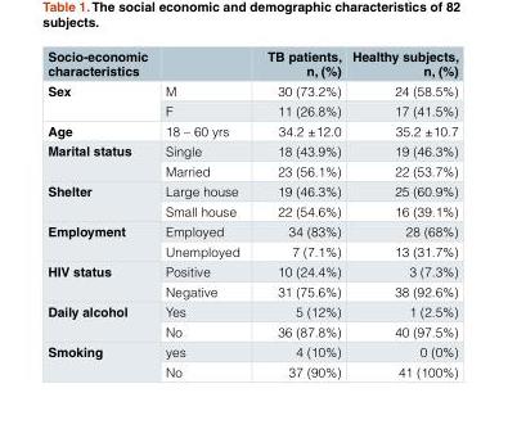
<table><thead><tr><td>Socio-economic characteristics</td><td></td><td>TB patients, n, (%)</td><td>Healthy subjects, n, (%)</td></tr></thead><tbody><tr><td rowspan="2">Sex</td><td>M</td><td>30 (73.2%)</td><td>24 (58.5%)</td></tr><tr><td>F</td><td>11 (26.8%)</td><td>17 (41.5%)</td></tr><tr><td>Age</td><td>18 – 60 yrs</td><td>34.2 ±12.0</td><td>35.2 ±10.7</td></tr><tr><td rowspan="2">Marital status</td><td>Single</td><td>18 (43.9%)</td><td>19 (46.3%)</td></tr><tr><td>Married</td><td>23 (56.1%)</td><td>22 (53.7%)</td></tr><tr><td rowspan="2">Shelter</td><td>Large house</td><td>19 (46.3%)</td><td>25 (60.9%)</td></tr><tr><td>Small house</td><td>22 (54.6%)</td><td>16 (39.1%)</td></tr><tr><td rowspan="2">Employment</td><td>Employed</td><td>34 (83%)</td><td>28 (68%)</td></tr><tr><td>Unemployed</td><td>7 (7.1%)</td><td>13 (31.7%)</td></tr><tr><td rowspan="2">HIV status</td><td>Positive</td><td>10 (24.4%)</td><td>3 (7.3%)</td></tr><tr><td>Negative</td><td>31 (75.6%)</td><td>38 (92.6%)</td></tr><tr><td rowspan="2">Daily alcohol</td><td>Yes</td><td>5 (12%)</td><td>1 (2.5%)</td></tr><tr><td>No</td><td>36 (87.8%)</td><td>40 (97.5%)</td></tr><tr><td rowspan="2">Smoking</td><td>yes</td><td>4 (10%)</td><td>0 (0%)</td></tr><tr><td>No</td><td>37 (90%)</td><td>41 (100%)</td></tr></tbody></table>